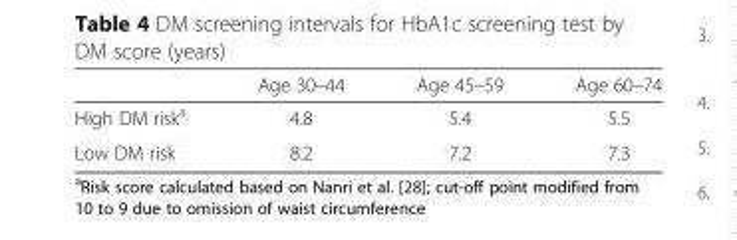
<table><thead><tr><td></td><td>Age 30–44</td><td>Age 45–59</td><td>Age 60–74</td></tr></thead><tbody><tr><td>High DM risk<sup>a</sup></td><td>4.8</td><td>5.4</td><td>5.5</td></tr><tr><td>Low DM risk</td><td>8.2</td><td>7.2</td><td>7.3</td></tr></tbody></table>